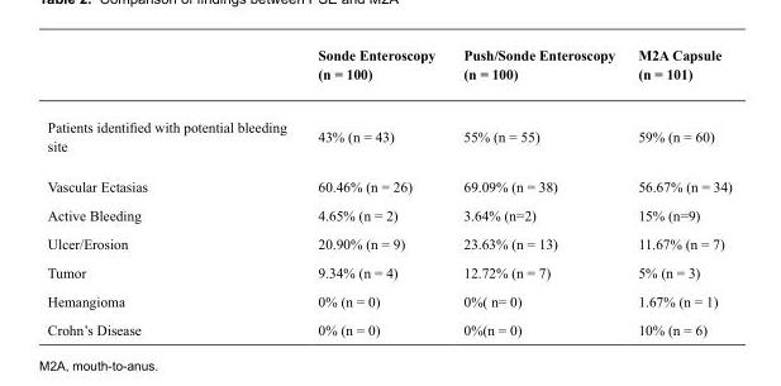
<table><thead><tr><td></td><td>Sonde Enteroscopy (n = 100)</td><td>Push/Sonde Enteroscopy (n = 100)</td><td>M2A Capsule (n = 101)</td></tr></thead><tbody><tr><td>Patients identified with potential bleeding site</td><td>43% (n = 43)</td><td>55% (n = 55)</td><td>59% (n = 60)</td></tr><tr><td>Vascular Ectasias</td><td>60.46% (n = 26)</td><td>69.09% (n = 38)</td><td>56.67% (n = 34)</td></tr><tr><td>Active Bleeding</td><td>4.65% (n = 2)</td><td>3.64% (n=2)</td><td>15% (n=9)</td></tr><tr><td>Ulcer/Erosion</td><td>20.90% (n = 9)</td><td>23.63% (n = 13)</td><td>11.67% (n = 7)</td></tr><tr><td>Tumor</td><td>9.34% (n = 4)</td><td>12.72% (n = 7)</td><td>5% (n = 3)</td></tr><tr><td>Hemangioma</td><td>0% (n = 0)</td><td>0%( n= 0)</td><td>1.67% (n = 1)</td></tr><tr><td>Crohn’s Disease</td><td>0% (n = 0)</td><td>0%(n = 0)</td><td>10% (n = 6)</td></tr></tbody></table>